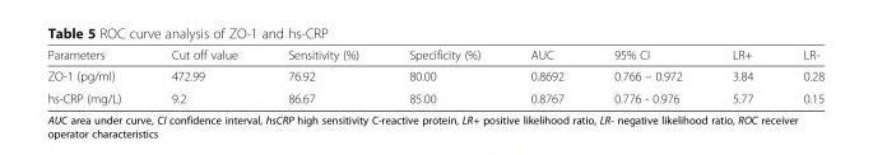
<table><thead><tr><td>Parameters</td><td>Cut off value</td><td>Sensitivity (%)</td><td>Specificity (%)</td><td>AUC</td><td>95% CI</td><td>LR+</td><td>LR-</td></tr></thead><tbody><tr><td>ZO-1 (pg/ml)</td><td>472.99</td><td>76.92</td><td>80.00</td><td>0.8692</td><td>0.766 – 0.972</td><td>3.84</td><td>0.28</td></tr><tr><td>hs-CRP (mg/L)</td><td>9.2</td><td>86.67</td><td>85.00</td><td>0.8767</td><td>0.776 - 0.976</td><td>5.77</td><td>0.15</td></tr></tbody></table>